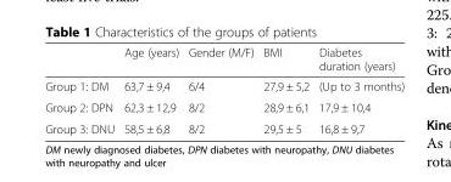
<table><thead><tr><td></td><td>Age (years)</td><td>Gender (M/F)</td><td>BMI</td><td>Diabetes duration (years)</td></tr></thead><tbody><tr><td>Group 1: DM</td><td>63,7 ± 9,4</td><td>6/4</td><td>27,9 ± 5,2</td><td>(Up to 3 months)</td></tr><tr><td>Group 2: DPN</td><td>62,3 ± 12,9</td><td>8/2</td><td>28,9 ± 6,1</td><td>17,9 ± 10,4</td></tr><tr><td>Group 3: DNU</td><td>58,5 ± 6,8</td><td>8/2</td><td>29,5 ± 5</td><td>16,8 ± 9,7</td></tr></tbody></table>